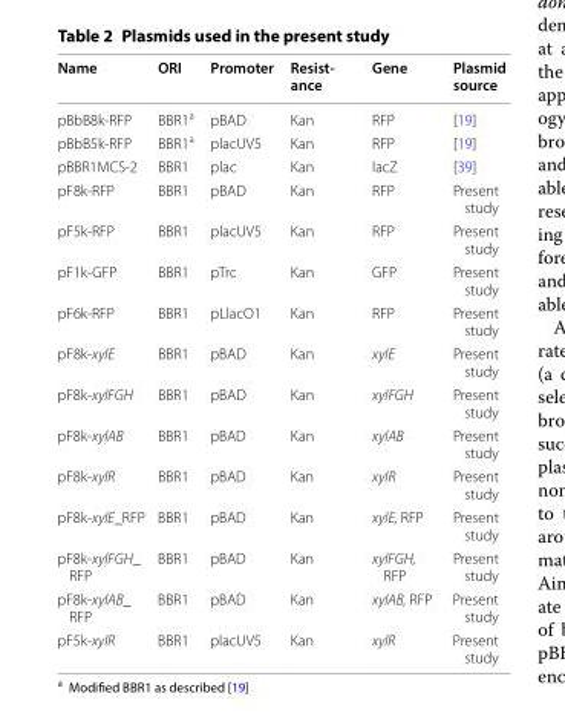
<table><thead><tr><td>Name</td><td>ORI</td><td>Promoter</td><td>Resist- ance</td><td>Gene</td><td>Plasmid source</td></tr></thead><tbody><tr><td>pBbB8k‑RFP</td><td>BBR1<sup>a</sup></td><td>pBAD</td><td>Kan</td><td>RFP</td><td>[19]</td></tr><tr><td>pBbB5k‑RFP</td><td>BBR1<sup>a</sup></td><td>placUV5</td><td>Kan</td><td>RFP</td><td>[19]</td></tr><tr><td>pBBR1MCS‑2</td><td>BBR1</td><td>plac</td><td>Kan</td><td>lacZ</td><td>[39]</td></tr><tr><td>pF8k‑RFP</td><td>BBR1</td><td>pBAD</td><td>Kan</td><td>RFP</td><td>Present study</td></tr><tr><td>pF5k‑RFP</td><td>BBR1</td><td>placUV5</td><td>Kan</td><td>RFP</td><td>Present study</td></tr><tr><td>pF1k‑GFP</td><td>BBR1</td><td>pTrc</td><td>Kan</td><td>GFP</td><td>Present study</td></tr><tr><td>pF6k‑RFP</td><td>BBR1</td><td>pLlacO1</td><td>Kan</td><td>RFP</td><td>Present study</td></tr><tr><td>pF8k‑xylE</td><td>BBR1</td><td>pBAD</td><td>Kan</td><td>xylE</td><td>Present study</td></tr><tr><td>pF8k‑xylFGH</td><td>BBR1</td><td>pBAD</td><td>Kan</td><td>xylFGH</td><td>Present study</td></tr><tr><td>pF8k‑xylAB</td><td>BBR1</td><td>pBAD</td><td>Kan</td><td>xylAB</td><td>Present study</td></tr><tr><td>pF8k‑xylR</td><td>BBR1</td><td>pBAD</td><td>Kan</td><td>xylR</td><td>Present study</td></tr><tr><td>pF8k‑xylE_RFP</td><td>BBR1</td><td>pBAD</td><td>Kan</td><td>xylE, RFP</td><td>Present study</td></tr><tr><td>pF8k‑xylFGH_ RFP</td><td>BBR1</td><td>pBAD</td><td>Kan</td><td>xylFGH, RFP</td><td>Present study</td></tr><tr><td>pF8k‑xylAB_ RFP</td><td>BBR1</td><td>pBAD</td><td>Kan</td><td>xylAB, RFP</td><td>Present study</td></tr><tr><td>pF5k‑xylR</td><td>BBR1</td><td>placUV5</td><td>Kan</td><td>xylR</td><td>Present study</td></tr></tbody></table>